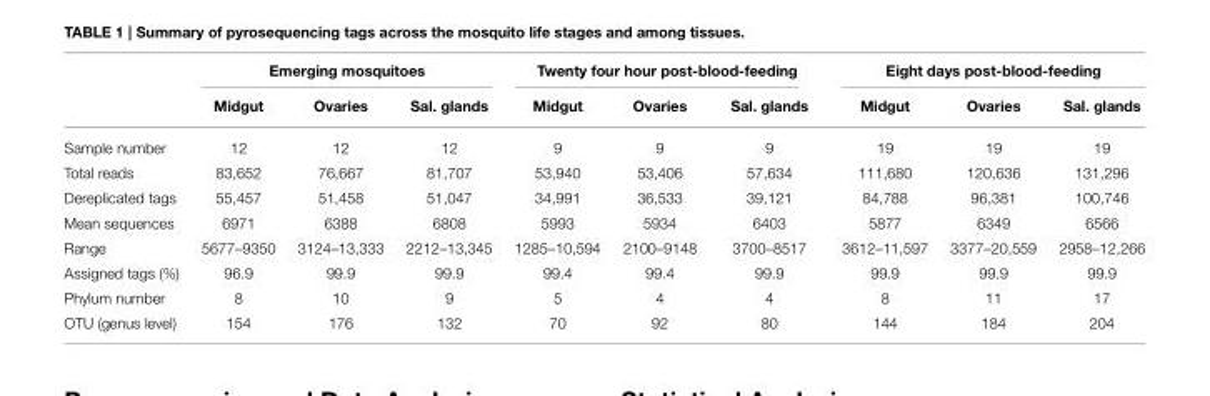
<table><thead><tr><td rowspan="2"></td><td colspan="3">Emerging mosquitoes</td><td colspan="3">Twenty four hour post-blood-feeding</td><td colspan="3">Eight days post-blood-feeding</td></tr><tr><td>Midgut</td><td>Ovaries</td><td>Sal. glands</td><td>Midgut</td><td>Ovaries</td><td>Sal. glands</td><td>Midgut</td><td>Ovaries</td><td>Sal. glands</td></tr></thead><tbody><tr><td>Sample number</td><td>12</td><td>12</td><td>12</td><td>9</td><td>9</td><td>9</td><td>19</td><td>19</td><td>19</td></tr><tr><td>Total reads</td><td>83,652</td><td>76,667</td><td>81,707</td><td>53,940</td><td>53,406</td><td>57,634</td><td>111,680</td><td>120,636</td><td>131,296</td></tr><tr><td>Dereplicated tags</td><td>55,457</td><td>51,458</td><td>51,047</td><td>34,991</td><td>36,533</td><td>39,121</td><td>84,788</td><td>96,381</td><td>100,746</td></tr><tr><td>Mean sequences</td><td>6971</td><td>6388</td><td>6808</td><td>5993</td><td>5934</td><td>6403</td><td>5877</td><td>6349</td><td>6566</td></tr><tr><td>Range</td><td>5677–9350</td><td>3124–13,333</td><td>2212–13,345</td><td>1285–10,594</td><td>2100–9148</td><td>3700–8517</td><td>3612–11,597</td><td>3377–20,559</td><td>2958–12,266</td></tr><tr><td>Assigned tags (%)</td><td>96.9</td><td>99.9</td><td>99.9</td><td>99.4</td><td>99.4</td><td>99.9</td><td>99.9</td><td>99.9</td><td>99.9</td></tr><tr><td>Phylum number</td><td>8</td><td>10</td><td>9</td><td>5</td><td>4</td><td>4</td><td>8</td><td>11</td><td>17</td></tr><tr><td>OTU (genus level)</td><td>154</td><td>176</td><td>132</td><td>70</td><td>92</td><td>80</td><td>144</td><td>184</td><td>204</td></tr></tbody></table>